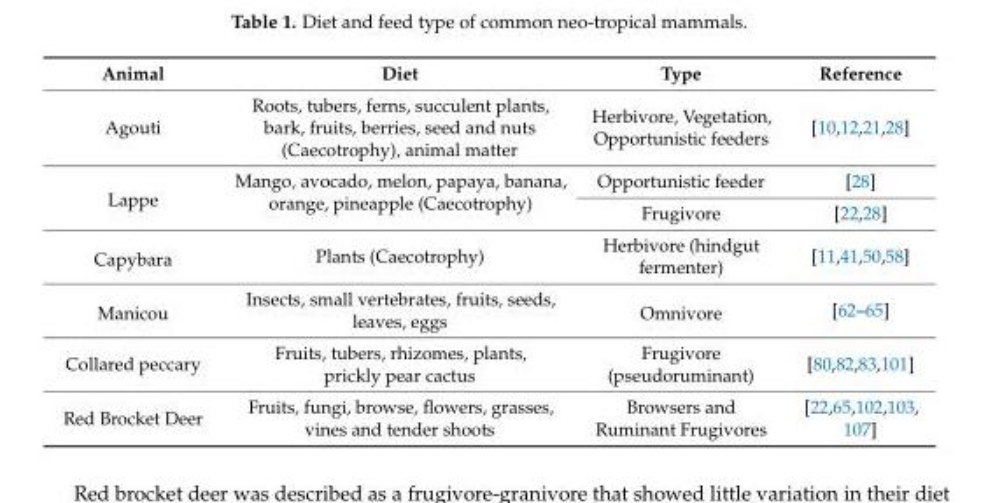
<table><thead><tr><td>Animal</td><td>Diet</td><td>Type</td><td>Reference</td></tr></thead><tbody><tr><td>Agouti</td><td>Roots, tubers, ferns, succulent plants, bark, fruits, berries, seed and nuts (Caecotrophy), animal matter</td><td>Herbivore, Vegetation, Opportunistic feeders</td><td>[10,12,21,28]</td></tr><tr><td rowspan="2">Lappe</td><td rowspan="2">Mango, avocado, melon, papaya, banana, orange, pineapple (Caecotrophy)</td><td>Opportunistic feeder</td><td>[28]</td></tr><tr><td>Frugivore</td><td>[22,28]</td></tr><tr><td>Capybara</td><td>Plants (Caecotrophy)</td><td>Herbivore (hindgut fermenter)</td><td>[11,41,50,58]</td></tr><tr><td>Manicou</td><td>Insects, small vertebrates, fruits, seeds, leaves, eggs</td><td>Omnivore</td><td>[62–65]</td></tr><tr><td>Collared peccary</td><td>Fruits, tubers, rhizomes, plants, prickly pear cactus</td><td>Frugivore (pseudoruminant)</td><td>[80,82,83,101]</td></tr><tr><td>Red Brocket Deer</td><td>Fruits, fungi, browse, flowers, grasses, vines and tender shoots</td><td>Browsers and Ruminant Frugivores</td><td>[22,65,102,103, 107]</td></tr></tbody></table>